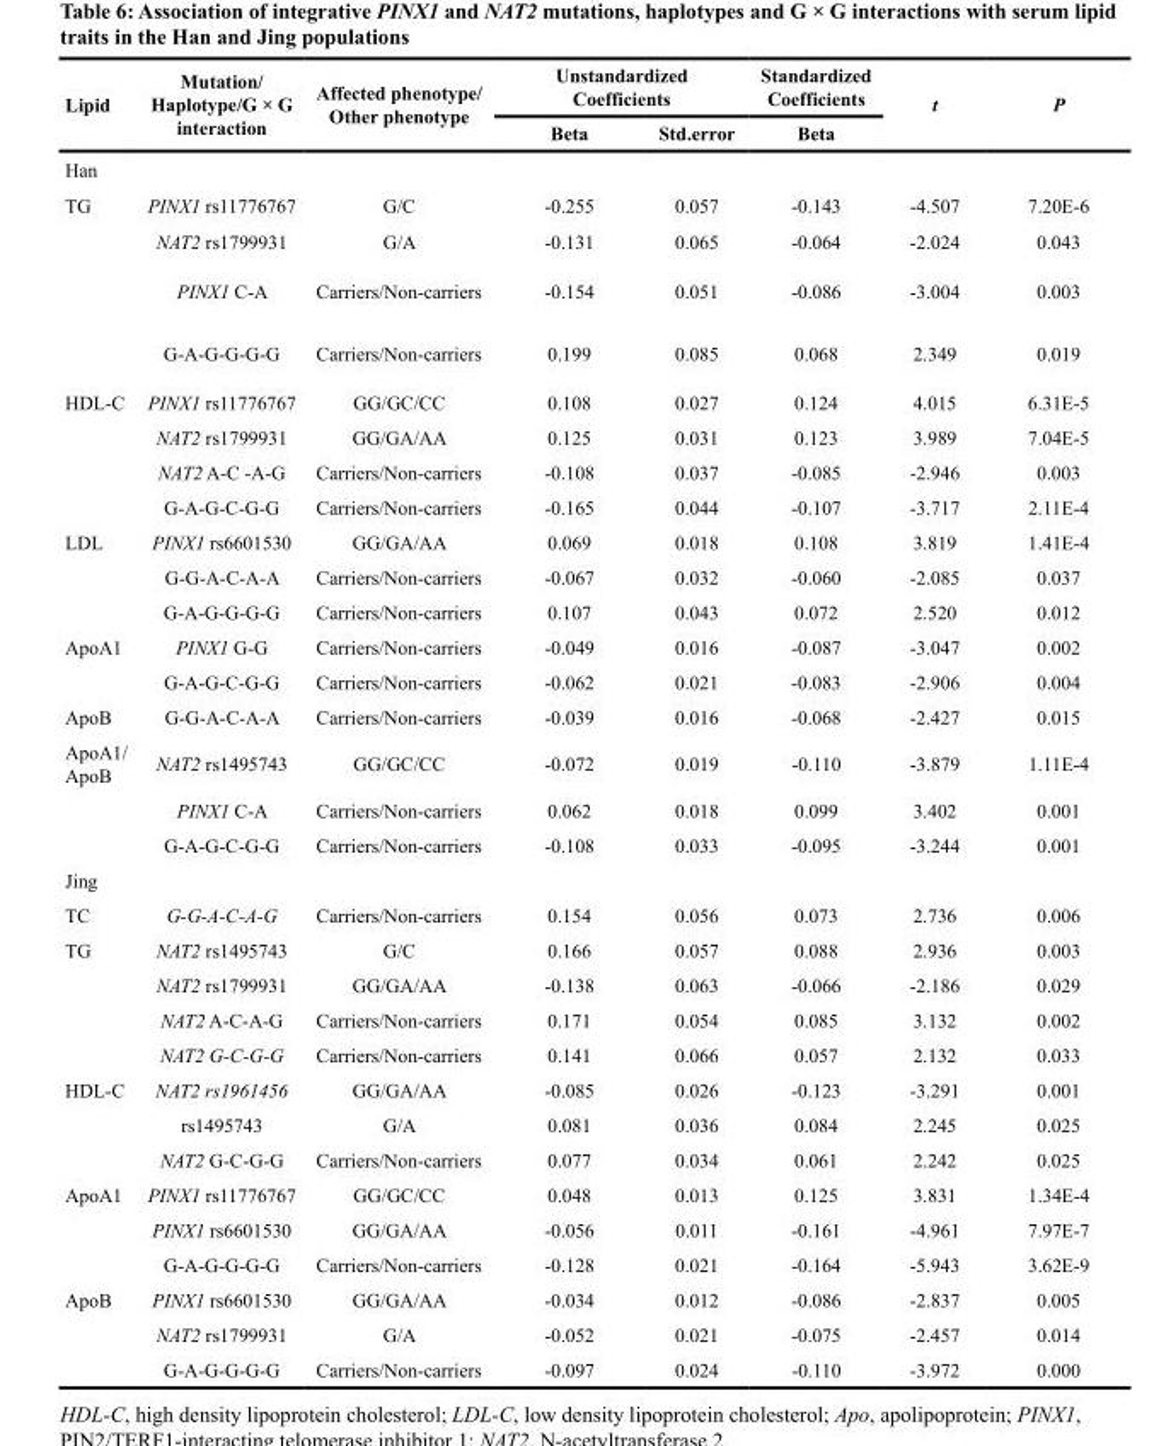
<table><thead><tr><td rowspan="2">Lipid</td><td rowspan="2">Mutation/ Haplotype/G × G interaction</td><td rowspan="2">Affected phenotype/ Other phenotype</td><td colspan="2">Unstandardized Coefficients</td><td rowspan="2">Standardized Coefficients Beta</td><td rowspan="2">t</td><td rowspan="2">P</td></tr><tr><td>Beta</td><td>Std.error</td></tr></thead><tbody><tr><td colspan="8">Han</td></tr><tr><td rowspan="4">TG</td><td>PINX1 rs11776767</td><td>G/C</td><td>-0.255</td><td>0.057</td><td>-0.143</td><td>-4.507</td><td>7.20E-6</td></tr><tr><td>NAT2 rs1799931</td><td>G/A</td><td>-0.131</td><td>0.065</td><td>-0.064</td><td>-2.024</td><td>0.043</td></tr><tr><td>PINX1 C-A</td><td>Carriers/Non-carriers</td><td>-0.154</td><td>0.051</td><td>-0.086</td><td>-3.004</td><td>0.003</td></tr><tr><td>G-A-G-G-G-G</td><td>Carriers/Non-carriers</td><td>0.199</td><td>0.085</td><td>0.068</td><td>2.349</td><td>0.019</td></tr><tr><td rowspan="4">HDL-C</td><td>PINX1 rs11776767</td><td>GG/GC/CC</td><td>0.108</td><td>0.027</td><td>0.124</td><td>4.015</td><td>6.31E-5</td></tr><tr><td>NAT2 rs1799931</td><td>GG/GA/AA</td><td>0.125</td><td>0.031</td><td>0.123</td><td>3.989</td><td>7.04E-5</td></tr><tr><td>NAT2 A-C -A-G</td><td>Carriers/Non-carriers</td><td>-0.108</td><td>0.037</td><td>-0.085</td><td>-2.946</td><td>0.003</td></tr><tr><td>G-A-G-C-G-G</td><td>Carriers/Non-carriers</td><td>-0.165</td><td>0.044</td><td>-0.107</td><td>-3.717</td><td>2.11E-4</td></tr><tr><td rowspan="3">LDL</td><td>PINX1 rs6601530</td><td>GG/GA/AA</td><td>0.069</td><td>0.018</td><td>0.108</td><td>3.819</td><td>1.41E-4</td></tr><tr><td>G-G-A-C-A-A</td><td>Carriers/Non-carriers</td><td>-0.067</td><td>0.032</td><td>-0.060</td><td>-2.085</td><td>0.037</td></tr><tr><td>G-A-G-G-G-G</td><td>Carriers/Non-carriers</td><td>0.107</td><td>0.043</td><td>0.072</td><td>2.520</td><td>0.012</td></tr><tr><td rowspan="2">ApoA1</td><td>PINX1 G-G</td><td>Carriers/Non-carriers</td><td>-0.049</td><td>0.016</td><td>-0.087</td><td>-3.047</td><td>0.002</td></tr><tr><td>G-A-G-C-G-G</td><td>Carriers/Non-carriers</td><td>-0.062</td><td>0.021</td><td>-0.083</td><td>-2.906</td><td>0.004</td></tr><tr><td>ApoB</td><td>G-G-A-C-A-A</td><td>Carriers/Non-carriers</td><td>-0.039</td><td>0.016</td><td>-0.068</td><td>-2.427</td><td>0.015</td></tr><tr><td rowspan="3">ApoA1/ ApoB</td><td>NAT2 rs1495743</td><td>GG/GC/CC</td><td>-0.072</td><td>0.019</td><td>-0.110</td><td>-3.879</td><td>1.11E-4</td></tr><tr><td>PINX1 C-A</td><td>Carriers/Non-carriers</td><td>0.062</td><td>0.018</td><td>0.099</td><td>3.402</td><td>0.001</td></tr><tr><td>G-A-G-C-G-G</td><td>Carriers/Non-carriers</td><td>-0.108</td><td>0.033</td><td>-0.095</td><td>-3.244</td><td>0.001</td></tr><tr><td colspan="8">Jing</td></tr><tr><td>TC</td><td>G-G-A-C-A-G</td><td>Carriers/Non-carriers</td><td>0.154</td><td>0.056</td><td>0.073</td><td>2.736</td><td>0.006</td></tr><tr><td rowspan="4">TG</td><td>NAT2 rs1495743</td><td>G/C</td><td>0.166</td><td>0.057</td><td>0.088</td><td>2.936</td><td>0.003</td></tr><tr><td>NAT2 rs1799931</td><td>GG/GA/AA</td><td>-0.138</td><td>0.063</td><td>-0.066</td><td>-2.186</td><td>0.029</td></tr><tr><td>NAT2 A-C-A-G</td><td>Carriers/Non-carriers</td><td>0.171</td><td>0.054</td><td>0.085</td><td>3.132</td><td>0.002</td></tr><tr><td>NAT2 G-C-G-G</td><td>Carriers/Non-carriers</td><td>0.141</td><td>0.066</td><td>0.057</td><td>2.132</td><td>0.033</td></tr><tr><td rowspan="3">HDL-C</td><td>NAT2 rs1961456</td><td>GG/GA/AA</td><td>-0.085</td><td>0.026</td><td>-0.123</td><td>-3.291</td><td>0.001</td></tr><tr><td>rs1495743</td><td>G/A</td><td>0.081</td><td>0.036</td><td>0.084</td><td>2.245</td><td>0.025</td></tr><tr><td>NAT2 G-C-G-G</td><td>Carriers/Non-carriers</td><td>0.077</td><td>0.034</td><td>0.061</td><td>2.242</td><td>0.025</td></tr><tr><td rowspan="3">ApoA1</td><td>PINX1 rs11776767</td><td>GG/GC/CC</td><td>0.048</td><td>0.013</td><td>0.125</td><td>3.831</td><td>1.34E-4</td></tr><tr><td>PINX1 rs6601530</td><td>GG/GA/AA</td><td>-0.056</td><td>0.011</td><td>-0.161</td><td>-4.961</td><td>7.97E-7</td></tr><tr><td>G-A-G-G-G-G</td><td>Carriers/Non-carriers</td><td>-0.128</td><td>0.021</td><td>-0.164</td><td>-5.943</td><td>3.62E-9</td></tr><tr><td rowspan="3">ApoB</td><td>PINX1 rs6601530</td><td>GG/GA/AA</td><td>-0.034</td><td>0.012</td><td>-0.086</td><td>-2.837</td><td>0.005</td></tr><tr><td>NAT2 rs1799931</td><td>G/A</td><td>-0.052</td><td>0.021</td><td>-0.075</td><td>-2.457</td><td>0.014</td></tr><tr><td>G-A-G-G-G-G</td><td>Carriers/Non-carriers</td><td>-0.097</td><td>0.024</td><td>-0.110</td><td>-3.972</td><td>0.000</td></tr></tbody></table>